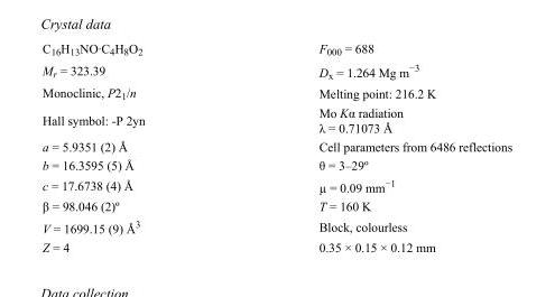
<table><tbody><tr><td>C<sub>16</sub>H<sub>13</sub>NO·C<sub>4</sub>H<sub>8</sub>O<sub>2</sub></td><td>F<sub>000</sub> = 688</td></tr><tr><td>M<sub>r</sub> = 323.39</td><td>D<sub>x</sub> = 1.264 Mg m<sup>−3</sup></td></tr><tr><td>Monoclinic, P2<sub>1</sub>/n</td><td>Melting point: 216.2 K</td></tr><tr><td>Hall symbol: -P 2yn</td><td>Mo Kα radiation λ = 0.71073 Å</td></tr><tr><td>a = 5.9351 (2) Å</td><td>Cell parameters from 6486 reflections</td></tr><tr><td>b = 16.3595 (5) Å</td><td>θ = 3–29º</td></tr><tr><td>c = 17.6738 (4) Å</td><td>µ = 0.09 mm<sup>−1</sup></td></tr><tr><td>β = 98.046 (2)º</td><td>T = 160 K</td></tr><tr><td>V = 1699.15 (9) Å<sup>3</sup></td><td>Block, colourless</td></tr><tr><td>Z = 4</td><td>0.35 × 0.15 × 0.12 mm</td></tr></tbody></table>